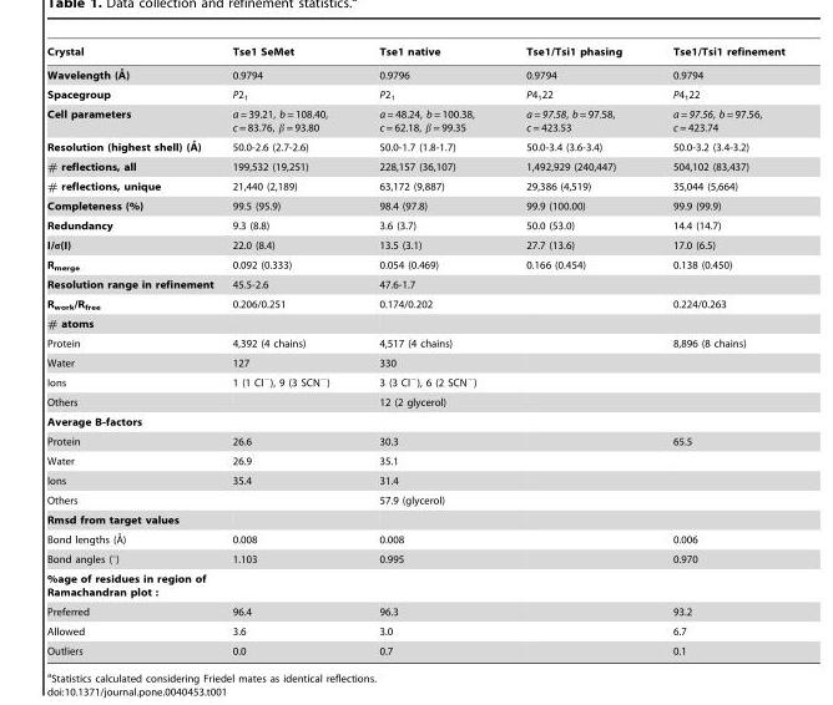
<table><thead><tr><td>Crystal</td><td>Tse1 SeMet</td><td>Tse1 native</td><td>Tse1/Tsi1 phasing</td><td>Tse1/Tsi1 refinement</td></tr></thead><tbody><tr><td>Wavelength (A˚)</td><td>0.9794</td><td>0.9796</td><td>0.9794</td><td>0.9794</td></tr><tr><td>Spacegroup</td><td>P2<sub>1</sub></td><td>P2<sub>1</sub></td><td>P4<sub>1</sub>22</td><td>P4<sub>1</sub>22</td></tr><tr><td>Cell parameters</td><td>a = 39.21, b = 108.40, c = 83.76, β = 93.80</td><td>a = 48.24, b = 100.38, c = 62.18, β = 99.35</td><td>a = 97.58, b = 97.58, c = 423.53</td><td>a = 97.56, b = 97.56, c = 423.74</td></tr><tr><td>Resolution (highest shell) (A˚ )</td><td>50.0-2.6 (2.7-2.6)</td><td>50.0-1.7 (1.8-1.7)</td><td>50.0-3.4 (3.6-3.4)</td><td>50.0-3.2 (3.4-3.2)</td></tr><tr><td># reflections, all</td><td>199,532 (19,251)</td><td>228,157 (36,107)</td><td>1,492,929 (240,447)</td><td>504,102 (83,437)</td></tr><tr><td># reflections, unique</td><td>21,440 (2,189)</td><td>63,172 (9,887)</td><td>29,386 (4,519)</td><td>35,044 (5,664)</td></tr><tr><td>Completeness (%)</td><td>99.5 (95.9)</td><td>98.4 (97.8)</td><td>99.9 (100.00)</td><td>99.9 (99.9)</td></tr><tr><td>Redundancy</td><td>9.3 (8.8)</td><td>3.6 (3.7)</td><td>50.0 (53.0)</td><td>14.4 (14.7)</td></tr><tr><td>I/σ(I)</td><td>22.0 (8.4)</td><td>13.5 (3.1)</td><td>27.7 (13.6)</td><td>17.0 (6.5)</td></tr><tr><td>R<sub>merge</sub></td><td>0.092 (0.333)</td><td>0.054 (0.469)</td><td>0.166 (0.454)</td><td>0.138 (0.450)</td></tr><tr><td>Resolution range in refinement</td><td>45.5-2.6</td><td>47.6-1.7</td><td></td><td></td></tr><tr><td>R<sub>work</sub>/R<sub>free</sub></td><td>0.206/0.251</td><td>0.174/0.202</td><td></td><td>0.224/0.263</td></tr><tr><td colspan="5"># atoms</td></tr><tr><td>Protein</td><td>4,392 (4 chains)</td><td>4,517 (4 chains)</td><td></td><td>8,896 (8 chains)</td></tr><tr><td>Water</td><td>127</td><td>330</td><td></td><td></td></tr><tr><td>Ions</td><td>1 (1 Cl<sup>−</sup>), 9 (3 SCN<sup>−</sup>)</td><td>3 (3 Cl<sup>−</sup>), 6 (2 SCN<sup>−</sup>)</td><td></td><td></td></tr><tr><td>Others</td><td></td><td>12 (2 glycerol)</td><td></td><td></td></tr><tr><td colspan="5">Average B-factors</td></tr><tr><td>Protein</td><td>26.6</td><td>30.3</td><td></td><td>65.5</td></tr><tr><td>Water</td><td>26.9</td><td>35.1</td><td></td><td></td></tr><tr><td>Ions</td><td>35.4</td><td>31.4</td><td></td><td></td></tr><tr><td>Others</td><td></td><td>57.9 (glycerol)</td><td></td><td></td></tr><tr><td colspan="5">Rmsd from target values</td></tr><tr><td>Bond lengths (A˚)</td><td>0.008</td><td>0.008</td><td></td><td>0.006</td></tr><tr><td>Bond angles (°)</td><td>1.103</td><td>0.995</td><td></td><td>0.970</td></tr><tr><td colspan="5">%age of residues in region of Ramachandran plot :</td></tr><tr><td>Preferred</td><td>96.4</td><td>96.3</td><td></td><td>93.2</td></tr><tr><td>Allowed</td><td>3.6</td><td>3.0</td><td></td><td>6.7</td></tr><tr><td>Outliers</td><td>0.0</td><td>0.7</td><td></td><td>0.1</td></tr></tbody></table>